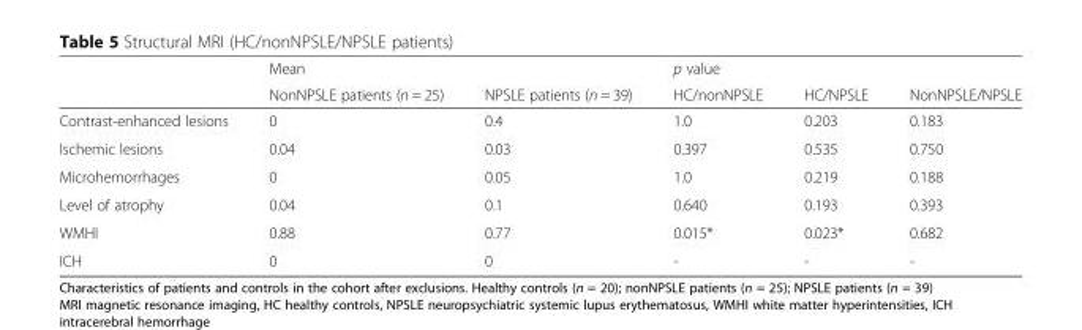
<table><thead><tr><td rowspan="2"></td><td rowspan="2">Mean NonNPSLE patients (n = 25)</td><td rowspan="2">NPSLE patients (n = 39)</td><td rowspan="2">p value HC/nonNPSLE</td><td rowspan="2">HC/NPSLE</td><td rowspan="2">NonNPSLE/NPSLE</td></tr><tr></tr></thead><tbody><tr><td>Contrast-enhanced lesions</td><td>0</td><td>0.4</td><td>1.0</td><td>0.203</td><td>0.183</td></tr><tr><td>Ischemic lesions</td><td>0.04</td><td>0.03</td><td>0.397</td><td>0.535</td><td>0.750</td></tr><tr><td>Microhemorrhages</td><td>0</td><td>0.05</td><td>1.0</td><td>0.219</td><td>0.188</td></tr><tr><td>Level of atrophy</td><td>0.04</td><td>0.1</td><td>0.640</td><td>0.193</td><td>0.393</td></tr><tr><td>WMHI</td><td>0.88</td><td>0.77</td><td>0.015*</td><td>0.023*</td><td>0.682</td></tr><tr><td>ICH</td><td>0</td><td>0</td><td>-</td><td>-</td><td>-</td></tr></tbody></table>